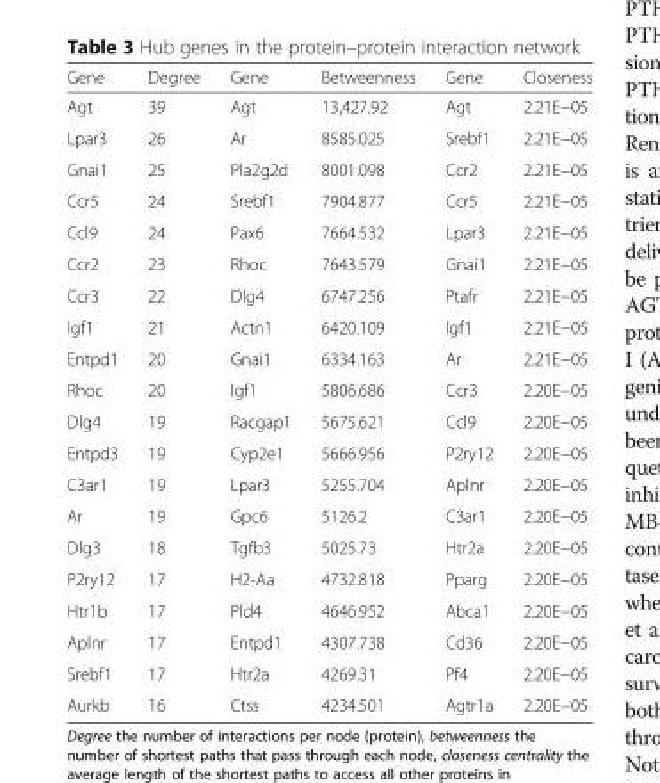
<table><thead><tr><td>Gene</td><td>Degree</td><td>Gene</td><td>Betweenness</td><td>Gene</td><td>Closeness</td></tr></thead><tbody><tr><td>Agt</td><td>39</td><td>Agt</td><td>13,427.92</td><td>Agt</td><td>2.21E−05</td></tr><tr><td>Lpar3</td><td>26</td><td>Ar</td><td>8585.025</td><td>Srebf1</td><td>2.21E−05</td></tr><tr><td>Gnai1</td><td>25</td><td>Pla2g2d</td><td>8001.098</td><td>Ccr2</td><td>2.21E−05</td></tr><tr><td>Ccr5</td><td>24</td><td>Srebf1</td><td>7904.877</td><td>Ccr5</td><td>2.21E−05</td></tr><tr><td>Ccl9</td><td>24</td><td>Pax6</td><td>7664.532</td><td>Lpar3</td><td>2.21E−05</td></tr><tr><td>Ccr2</td><td>23</td><td>Rhoc</td><td>7643.579</td><td>Gnai1</td><td>2.21E−05</td></tr><tr><td>Ccr3</td><td>22</td><td>Dlg4</td><td>6747.256</td><td>Ptafr</td><td>2.21E−05</td></tr><tr><td>Igf1</td><td>21</td><td>Actn1</td><td>6420.109</td><td>Igf1</td><td>2.21E−05</td></tr><tr><td>Entpd1</td><td>20</td><td>Gnai1</td><td>6334.163</td><td>Ar</td><td>2.21E−05</td></tr><tr><td>Rhoc</td><td>20</td><td>Igf1</td><td>5806.686</td><td>Ccr3</td><td>2.20E−05</td></tr><tr><td>Dlg4</td><td>19</td><td>Racgap1</td><td>5675.621</td><td>Ccl9</td><td>2.20E−05</td></tr><tr><td>Entpd3</td><td>19</td><td>Cyp2e1</td><td>5666.956</td><td>P2ry12</td><td>2.20E−05</td></tr><tr><td>C3ar1</td><td>19</td><td>Lpar3</td><td>5255.704</td><td>Aplnr</td><td>2.20E−05</td></tr><tr><td>Ar</td><td>19</td><td>Gpc6</td><td>5126.2</td><td>C3ar1</td><td>2.20E−05</td></tr><tr><td>Dlg3</td><td>18</td><td>Tgfb3</td><td>5025.73</td><td>Htr2a</td><td>2.20E−05</td></tr><tr><td>P2ry12</td><td>17</td><td>H2-Aa</td><td>4732.818</td><td>Pparg</td><td>2.20E−05</td></tr><tr><td>Htr1b</td><td>17</td><td>Pld4</td><td>4646.952</td><td>Abca1</td><td>2.20E−05</td></tr><tr><td>Aplnr</td><td>17</td><td>Entpd1</td><td>4307.738</td><td>Cd36</td><td>2.20E−05</td></tr><tr><td>Srebf1</td><td>17</td><td>Htr2a</td><td>4269.31</td><td>Pf4</td><td>2.20E−05</td></tr><tr><td>Aurkb</td><td>16</td><td>Ctss</td><td>4234.501</td><td>Agtr1a</td><td>2.20E−05</td></tr></tbody></table>